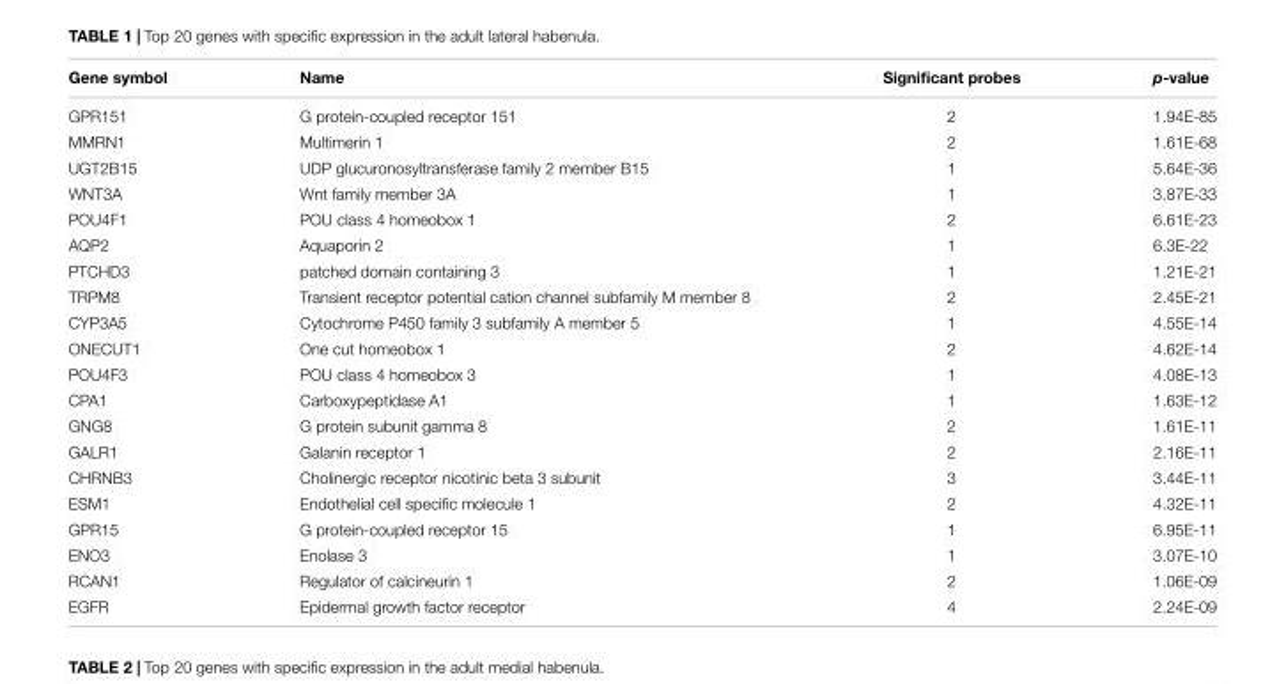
<table><thead><tr><td>Gene symbol</td><td>Name</td><td>Significant probes</td><td>p-value</td></tr></thead><tbody><tr><td>GPR151</td><td>G protein-coupled receptor 151</td><td>2</td><td>1.94E-85</td></tr><tr><td>MMRN1</td><td>Multimerin 1</td><td>2</td><td>1.61E-68</td></tr><tr><td>UGT2B15</td><td>UDP glucuronosyltransferase family 2 member B15</td><td>1</td><td>5.64E-36</td></tr><tr><td>WNT3A</td><td>Wnt family member 3A</td><td>1</td><td>3.87E-33</td></tr><tr><td>POU4F1</td><td>POU class 4 homeobox 1</td><td>2</td><td>6.61E-23</td></tr><tr><td>AQP2</td><td>Aquaporin 2</td><td>1</td><td>6.3E-22</td></tr><tr><td>PTCHD3</td><td>patched domain containing 3</td><td>1</td><td>1.21E-21</td></tr><tr><td>TRPM8</td><td>Transient receptor potential cation channel subfamily M member 8</td><td>2</td><td>2.45E-21</td></tr><tr><td>CYP3A5</td><td>Cytochrome P450 family 3 subfamily A member 5</td><td>1</td><td>4.55E-14</td></tr><tr><td>ONECUT1</td><td>One cut homeobox 1</td><td>2</td><td>4.62E-14</td></tr><tr><td>POU4F3</td><td>POU class 4 homeobox 3</td><td>1</td><td>4.08E-13</td></tr><tr><td>CPA1</td><td>Carboxypeptidase A1</td><td>1</td><td>1.63E-12</td></tr><tr><td>GNG8</td><td>G protein subunit gamma 8</td><td>2</td><td>1.61E-11</td></tr><tr><td>GALR1</td><td>Galanin receptor 1</td><td>2</td><td>2.16E-11</td></tr><tr><td>CHRNB3</td><td>Cholinergic receptor nicotinic beta 3 subunit</td><td>3</td><td>3.44E-11</td></tr><tr><td>ESM1</td><td>Endothelial cell specific molecule 1</td><td>2</td><td>4.32E-11</td></tr><tr><td>GPR15</td><td>G protein-coupled receptor 15</td><td>1</td><td>6.95E-11</td></tr><tr><td>ENO3</td><td>Enolase 3</td><td>1</td><td>3.07E-10</td></tr><tr><td>RCAN1</td><td>Regulator of calcineurin 1</td><td>2</td><td>1.06E-09</td></tr><tr><td>EGFR</td><td>Epidermal growth factor receptor</td><td>4</td><td>2.24E-09</td></tr></tbody></table>